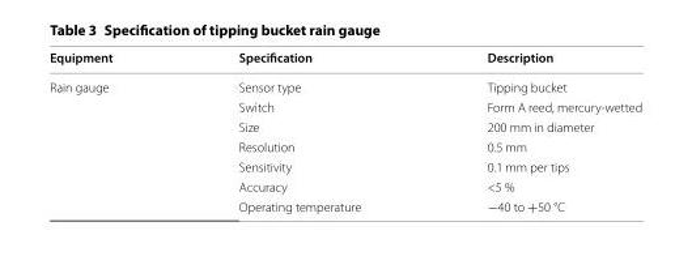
<table><thead><tr><td>Equipment</td><td>Specification</td><td>Description</td></tr></thead><tbody><tr><td rowspan="7">Rain gauge</td><td>Sensor type</td><td>Tipping bucket</td></tr><tr><td>Switch</td><td>Form A reed, mercury‑wetted</td></tr><tr><td>Size</td><td>200 mm in diameter</td></tr><tr><td>Resolution</td><td>0.5 mm</td></tr><tr><td>Sensitivity</td><td>0.1 mm per tips</td></tr><tr><td>Accuracy</td><td>&lt;5 %</td></tr><tr><td>Operating temperature</td><td>−40 to +50 °C</td></tr></tbody></table>